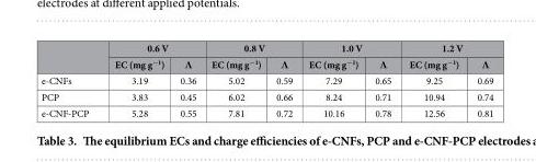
<table><thead><tr><td rowspan="2"></td><td colspan="2">0.6 V</td><td colspan="2">0.8 V</td><td colspan="2">1.0 V</td><td colspan="2">1.2 V</td></tr><tr><td>EC (mg g<sup>−1</sup>)</td><td>Λ</td><td>EC (mg g<sup>−1</sup>)</td><td>Λ</td><td>EC (mg g<sup>−1</sup>)</td><td>Λ</td><td>EC (mg g<sup>−1</sup>)</td><td>Λ</td></tr></thead><tbody><tr><td>e-CNFs</td><td>3.19</td><td>0.36</td><td>5.02</td><td>0.59</td><td>7.29</td><td>0.65</td><td>9.25</td><td>0.69</td></tr><tr><td>PCP</td><td>3.83</td><td>0.45</td><td>6.02</td><td>0.66</td><td>8.24</td><td>0.71</td><td>10.94</td><td>0.74</td></tr><tr><td>e-CNF-PCP</td><td>5.28</td><td>0.55</td><td>7.81</td><td>0.72</td><td>10.16</td><td>0.78</td><td>12.56</td><td>0.81</td></tr></tbody></table>